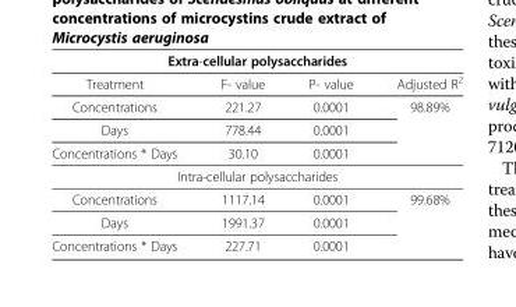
<table><thead><tr><td colspan="4">Extra-cellular polysaccharides</td></tr><tr><td>Treatment</td><td>F- value</td><td>P- value</td><td>Adjusted R<sup>2</sup></td></tr></thead><tbody><tr><td>Concentrations</td><td>221.27</td><td>0.0001</td><td rowspan="3">98.89%</td></tr><tr><td>Days</td><td>778.44</td><td>0.0001</td></tr><tr><td>Concentrations * Days</td><td>30.10</td><td>0.0001</td></tr><tr><td colspan="4">Intra-cellular polysaccharides</td></tr><tr><td>Concentrations</td><td>1117.14</td><td>0.0001</td><td rowspan="3">99.68%</td></tr><tr><td>Days</td><td>1991.37</td><td>0.0001</td></tr><tr><td>Concentrations * Days</td><td>227.71</td><td>0.0001</td></tr></tbody></table>